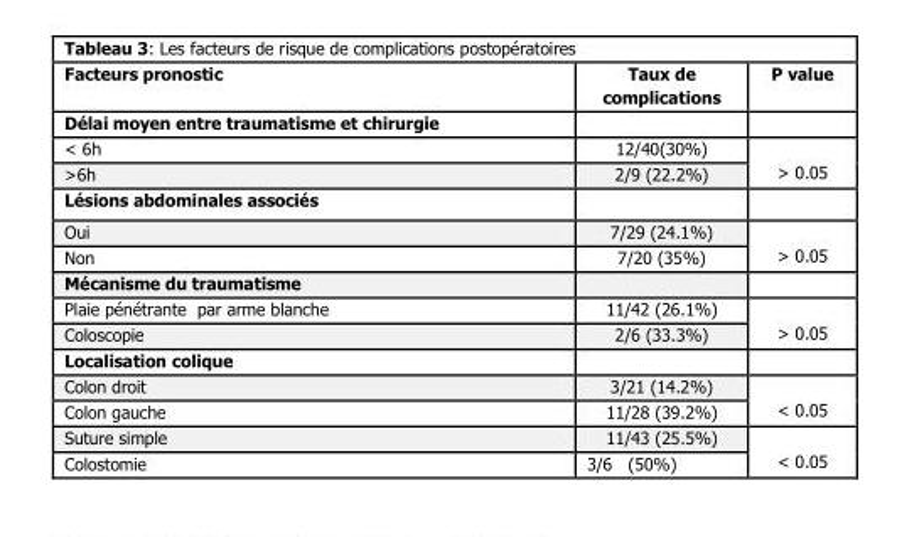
<table><thead><tr><td>Facteurs pronostic</td><td>Taux de complications</td><td>P value</td></tr></thead><tbody><tr><td colspan="3">Délai moyen entre traumatisme et chirurgie</td></tr><tr><td>&lt; 6h</td><td>12/40(30%)</td><td rowspan="2">&gt; 0.05</td></tr><tr><td>&gt;6h</td><td>2/9 (22.2%)</td></tr><tr><td colspan="3">Lésions abdominales associés</td></tr><tr><td>Oui</td><td>7/29 (24.1%)</td><td rowspan="2">&gt; 0.05</td></tr><tr><td>Non</td><td>7/20 (35%)</td></tr><tr><td colspan="3">Mécanisme du traumatisme</td></tr><tr><td>Plaie pénétrante par arme blanche</td><td>11/42 (26.1%)</td><td rowspan="2">&gt; 0.05</td></tr><tr><td>Coloscopie</td><td>2/6 (33.3%)</td></tr><tr><td colspan="3">Localisation colique</td></tr><tr><td>Colon droit</td><td>3/21 (14.2%)</td><td rowspan="2">&lt; 0.05</td></tr><tr><td>Colon gauche</td><td>11/28 (39.2%)</td></tr><tr><td>Suture simple</td><td>11/43 (25.5%)</td><td rowspan="2">&lt; 0.05</td></tr><tr><td>Colostomie</td><td>3/6 (50%)</td></tr></tbody></table>